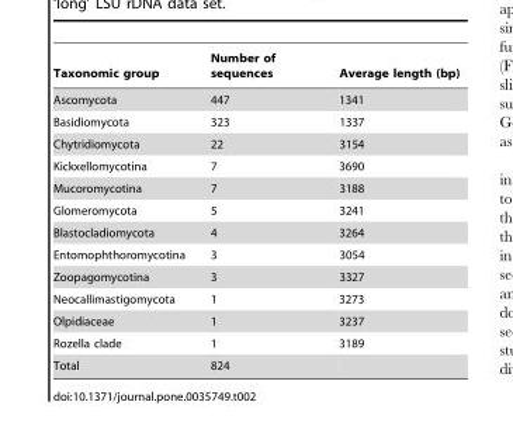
<table><thead><tr><td>Taxonomic group</td><td>Number of sequences</td><td>Average length (bp)</td></tr></thead><tbody><tr><td>Ascomycota</td><td>447</td><td>1341</td></tr><tr><td>Basidiomycota</td><td>323</td><td>1337</td></tr><tr><td>Chytridiomycota</td><td>22</td><td>3154</td></tr><tr><td>Kickxellomycotina</td><td>7</td><td>3690</td></tr><tr><td>Mucoromycotina</td><td>7</td><td>3188</td></tr><tr><td>Glomeromycota</td><td>5</td><td>3241</td></tr><tr><td>Blastocladiomycota</td><td>4</td><td>3264</td></tr><tr><td>Entomophthoromycotina</td><td>3</td><td>3054</td></tr><tr><td>Zoopagomycotina</td><td>3</td><td>3327</td></tr><tr><td>Neocallimastigomycota</td><td>1</td><td>3273</td></tr><tr><td>Olpidiaceae</td><td>1</td><td>3237</td></tr><tr><td>Rozella clade</td><td>1</td><td>3189</td></tr><tr><td>Total</td><td>824</td><td></td></tr></tbody></table>